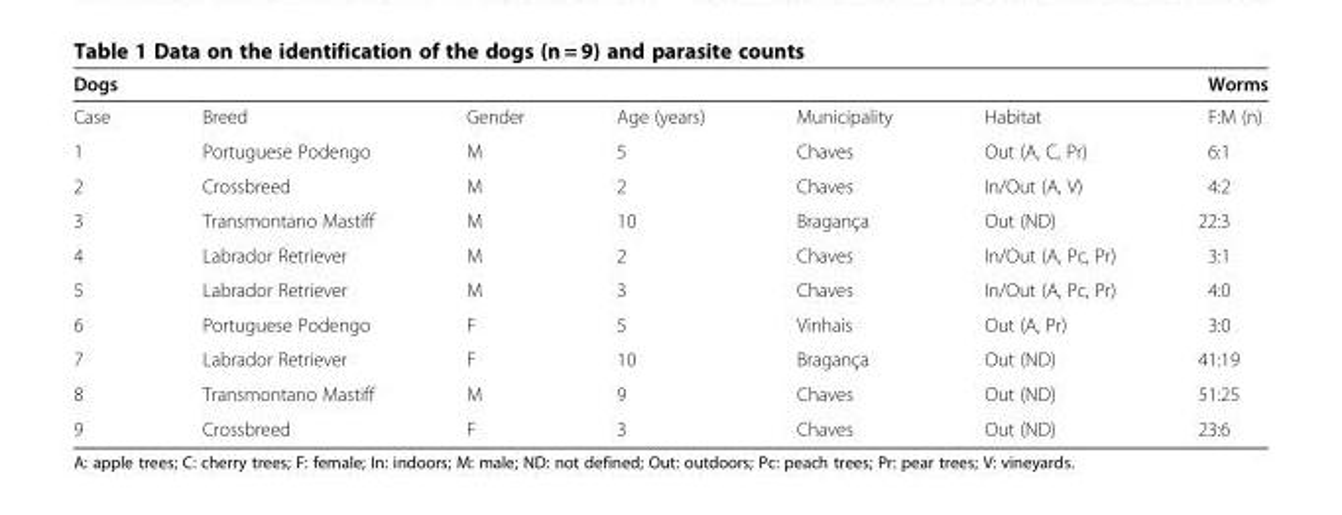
<table><thead><tr><td colspan="6">Dogs</td><td rowspan="2">Worms F:M (n)</td></tr><tr><td>Case</td><td>Breed</td><td>Gender</td><td>Age (years)</td><td>Municipality</td><td>Habitat</td></tr></thead><tbody><tr><td>1</td><td>Portuguese Podengo</td><td>M</td><td>5</td><td>Chaves</td><td>Out (A, C, Pr)</td><td>6:1</td></tr><tr><td>2</td><td>Crossbreed</td><td>M</td><td>2</td><td>Chaves</td><td>In/Out (A, V)</td><td>4:2</td></tr><tr><td>3</td><td>Transmontano Mastiff</td><td>M</td><td>10</td><td>Bragança</td><td>Out (ND)</td><td>22:3</td></tr><tr><td>4</td><td>Labrador Retriever</td><td>M</td><td>2</td><td>Chaves</td><td>In/Out (A, Pc, Pr)</td><td>3:1</td></tr><tr><td>5</td><td>Labrador Retriever</td><td>M</td><td>3</td><td>Chaves</td><td>In/Out (A, Pc, Pr)</td><td>4:0</td></tr><tr><td>6</td><td>Portuguese Podengo</td><td>F</td><td>5</td><td>Vinhais</td><td>Out (A, Pr)</td><td>3:0</td></tr><tr><td>7</td><td>Labrador Retriever</td><td>F</td><td>10</td><td>Bragança</td><td>Out (ND)</td><td>41:19</td></tr><tr><td>8</td><td>Transmontano Mastiff</td><td>M</td><td>9</td><td>Chaves</td><td>Out (ND)</td><td>51:25</td></tr><tr><td>9</td><td>Crossbreed</td><td>F</td><td>3</td><td>Chaves</td><td>Out (ND)</td><td>23:6</td></tr></tbody></table>